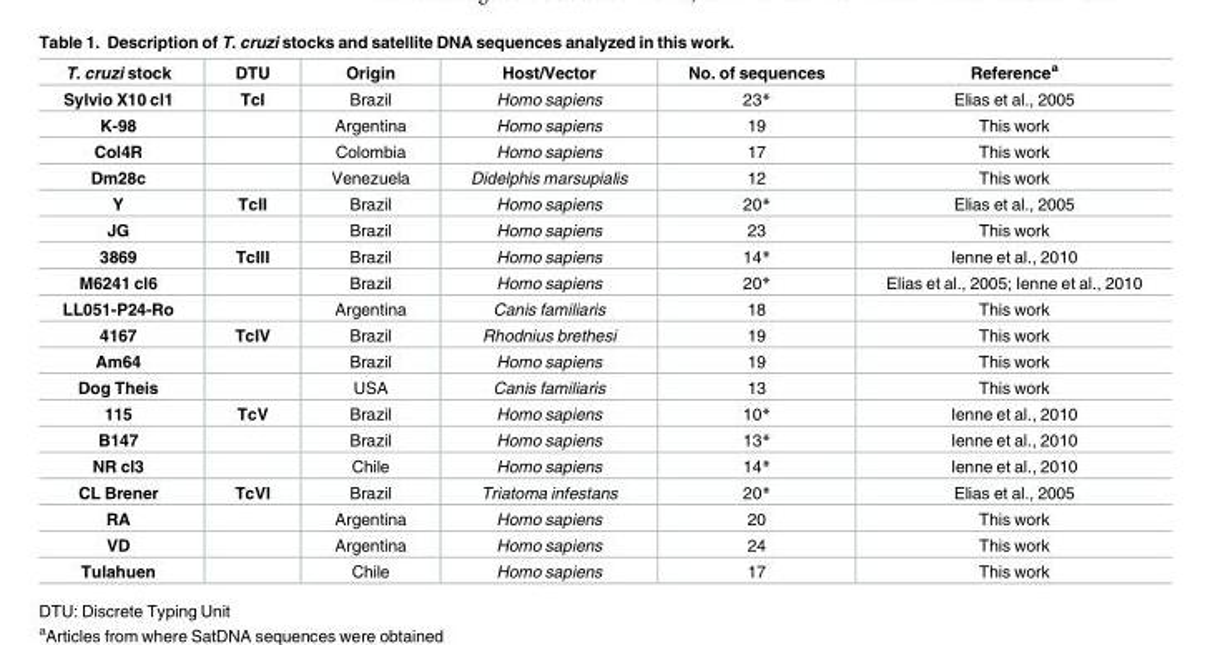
<table><thead><tr><td>T. cruzi stock</td><td>DTU</td><td>Origin</td><td>Host/Vector</td><td>No. of sequences</td><td>Reference<sup>a</sup></td></tr></thead><tbody><tr><td>Sylvio X10 cl1</td><td>TcI</td><td>Brazil</td><td>Homo sapiens</td><td>23*</td><td>Elias et al., 2005</td></tr><tr><td>K-98</td><td></td><td>Argentina</td><td>Homo sapiens</td><td>19</td><td>This work</td></tr><tr><td>Col4R</td><td></td><td>Colombia</td><td>Homo sapiens</td><td>17</td><td>This work</td></tr><tr><td>Dm28c</td><td></td><td>Venezuela</td><td>Didelphis marsupialis</td><td>12</td><td>This work</td></tr><tr><td>Y</td><td>TcII</td><td>Brazil</td><td>Homo sapiens</td><td>20*</td><td>Elias et al., 2005</td></tr><tr><td>JG</td><td></td><td>Brazil</td><td>Homo sapiens</td><td>23</td><td>This work</td></tr><tr><td>3869</td><td>TcIII</td><td>Brazil</td><td>Homo sapiens</td><td>14*</td><td>Ienne et al., 2010</td></tr><tr><td>M6241 cl6</td><td></td><td>Brazil</td><td>Homo sapiens</td><td>20*</td><td>Elias et al., 2005; Ienne et al., 2010</td></tr><tr><td>LL051-P24-Ro</td><td></td><td>Argentina</td><td>Canis familiaris</td><td>18</td><td>This work</td></tr><tr><td>4167</td><td>TcIV</td><td>Brazil</td><td>Rhodnius brethesi</td><td>19</td><td>This work</td></tr><tr><td>Am64</td><td></td><td>Brazil</td><td>Homo sapiens</td><td>19</td><td>This work</td></tr><tr><td>Dog Theis</td><td></td><td>USA</td><td>Canis familiaris</td><td>13</td><td>This work</td></tr><tr><td>115</td><td>TcV</td><td>Brazil</td><td>Homo sapiens</td><td>10*</td><td>Ienne et al., 2010</td></tr><tr><td>B147</td><td></td><td>Brazil</td><td>Homo sapiens</td><td>13*</td><td>Ienne et al., 2010</td></tr><tr><td>NR cl3</td><td></td><td>Chile</td><td>Homo sapiens</td><td>14*</td><td>Ienne et al., 2010</td></tr><tr><td>CL Brener</td><td>TcVI</td><td>Brazil</td><td>Triatoma infestans</td><td>20*</td><td>Elias et al., 2005</td></tr><tr><td>RA</td><td></td><td>Argentina</td><td>Homo sapiens</td><td>20</td><td>This work</td></tr><tr><td>VD</td><td></td><td>Argentina</td><td>Homo sapiens</td><td>24</td><td>This work</td></tr><tr><td>Tulahuen</td><td></td><td>Chile</td><td>Homo sapiens</td><td>17</td><td>This work</td></tr></tbody></table>